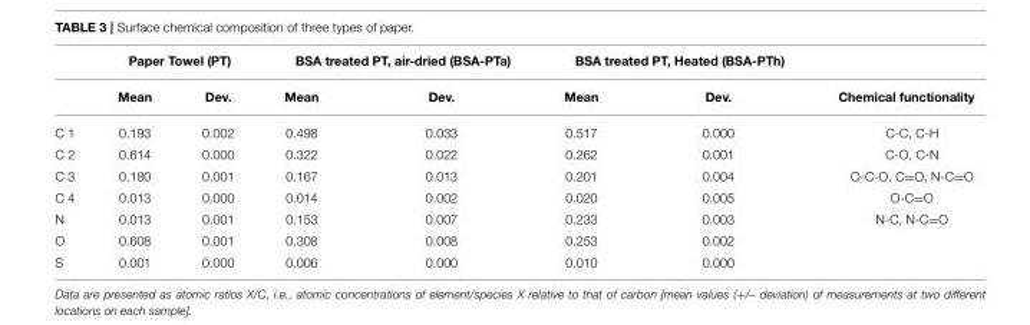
<table><thead><tr><td rowspan="2"></td><td colspan="2">Paper Towel (PT)</td><td colspan="2">BSA treated PT, air-dried (BSA-PTa)</td><td colspan="2">BSA treated PT, Heated (BSA-PTh)</td><td rowspan="2">Chemical functionality</td></tr><tr><td>Mean</td><td>Dev.</td><td>Mean</td><td>Dev.</td><td>Mean</td><td>Dev.</td></tr></thead><tbody><tr><td>C 1</td><td>0.193</td><td>0.002</td><td>0.498</td><td>0.033</td><td>0.517</td><td>0.000</td><td>C-C, C-H</td></tr><tr><td>C 2</td><td>0.614</td><td>0.000</td><td>0.322</td><td>0.022</td><td>0.262</td><td>0.001</td><td>C-O, C-N</td></tr><tr><td>C 3</td><td>0.180</td><td>0.001</td><td>0.167</td><td>0.013</td><td>0.201</td><td>0.004</td><td>O-C-O, C=O, N-C=O</td></tr><tr><td>C 4</td><td>0.013</td><td>0.000</td><td>0.014</td><td>0.002</td><td>0.020</td><td>0.005</td><td>O-C=O</td></tr><tr><td>N</td><td>0.013</td><td>0.001</td><td>0.153</td><td>0.007</td><td>0.233</td><td>0.003</td><td>N-C, N-C=O</td></tr><tr><td>O</td><td>0.608</td><td>0.001</td><td>0.308</td><td>0.008</td><td>0.253</td><td>0.002</td><td></td></tr><tr><td>S</td><td>0.001</td><td>0.000</td><td>0.006</td><td>0.000</td><td>0.010</td><td>0.000</td><td></td></tr></tbody></table>